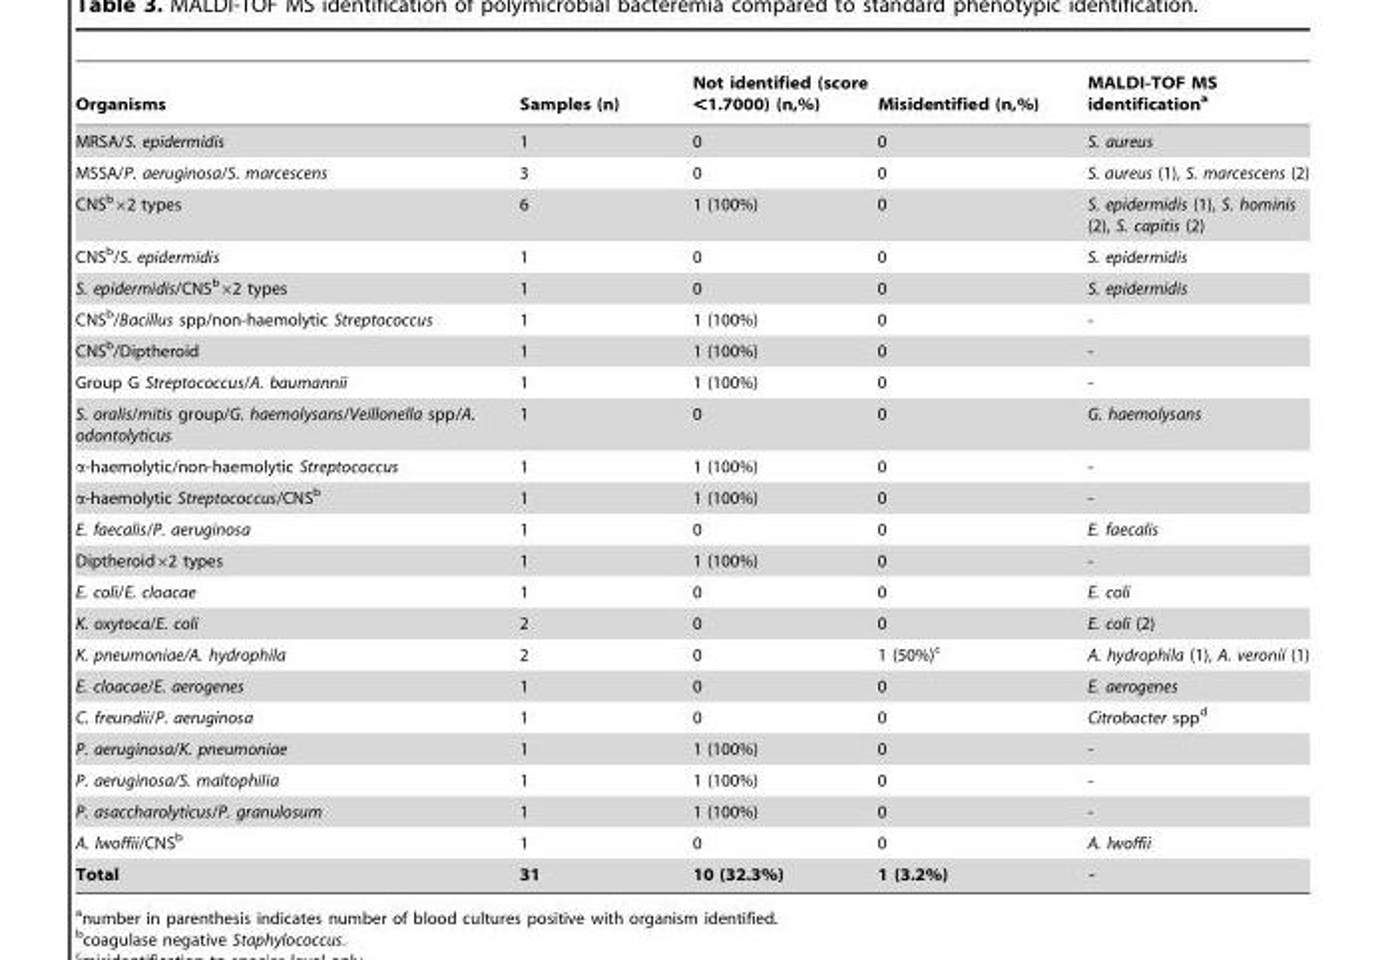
<table><thead><tr><td>Organisms</td><td>Samples (n)</td><td>Not identified (score &lt;1.7000) (n,%)</td><td>Misidentified (n,%)</td><td>MALDI-TOF MS identification<sup>a</sup></td></tr></thead><tbody><tr><td>MRSA/S. epidermidis</td><td>1</td><td>0</td><td>0</td><td>S. aureus</td></tr><tr><td>MSSA/P. aeruginosa/S. marcescens</td><td>3</td><td>0</td><td>0</td><td>S. aureus (1), S. marcescens (2)</td></tr><tr><td>CNS<sup>b</sup>×2 types</td><td>6</td><td>1 (100%)</td><td>0</td><td>S. epidermidis (1), S. hominis (2), S. capitis (2)</td></tr><tr><td>CNS<sup>b</sup>/S. epidermidis</td><td>1</td><td>0</td><td>0</td><td>S. epidermidis</td></tr><tr><td>S. epidermidis/CNS<sup>b</sup>×2 types</td><td>1</td><td>0</td><td>0</td><td>S. epidermidis</td></tr><tr><td>CNS<sup>b</sup>/Bacillus spp/non-haemolytic Streptococcus</td><td>1</td><td>1 (100%)</td><td>0</td><td>-</td></tr><tr><td>CNS<sup>b</sup>/Diptheroid</td><td>1</td><td>1 (100%)</td><td>0</td><td>-</td></tr><tr><td>Group G Streptococcus/A. baumannii</td><td>1</td><td>1 (100%)</td><td>0</td><td>-</td></tr><tr><td>S. oralis/mitis group/G. haemolysans/Veillonella spp/A. odontolyticus</td><td>1</td><td>0</td><td>0</td><td>G. haemolysans</td></tr><tr><td>α-haemolytic/non-haemolytic Streptococcus</td><td>1</td><td>1 (100%)</td><td>0</td><td>-</td></tr><tr><td>α-haemolytic Streptococcus/CNS<sup>b</sup></td><td>1</td><td>1 (100%)</td><td>0</td><td>-</td></tr><tr><td>E. faecalis/P. aeruginosa</td><td>1</td><td>0</td><td>0</td><td>E. faecalis</td></tr><tr><td>Diptheroid×2 types</td><td>1</td><td>1 (100%)</td><td>0</td><td>-</td></tr><tr><td>E. coli/E. cloacae</td><td>1</td><td>0</td><td>0</td><td>E. coli</td></tr><tr><td>K. oxytoca/E. coli</td><td>2</td><td>0</td><td>0</td><td>E. coli (2)</td></tr><tr><td>K. pneumoniae/A. hydrophila</td><td>2</td><td>0</td><td>1 (50%)<sup>c</sup></td><td>A. hydrophila (1), A. veronii (1)</td></tr><tr><td>E. cloacae/E. aerogenes</td><td>1</td><td>0</td><td>0</td><td>E. aerogenes</td></tr><tr><td>C. freundii/P. aeruginosa</td><td>1</td><td>0</td><td>0</td><td>Citrobacter spp<sup>d</sup></td></tr><tr><td>P. aeruginosa/K. pneumoniae</td><td>1</td><td>1 (100%)</td><td>0</td><td>-</td></tr><tr><td>P. aeruginosa/S. maltophilia</td><td>1</td><td>1 (100%)</td><td>0</td><td>-</td></tr><tr><td>P. asaccharolyticus/P. granulosum</td><td>1</td><td>1 (100%)</td><td>0</td><td>-</td></tr><tr><td>A. lwoffii/CNS<sup>b</sup></td><td>1</td><td>0</td><td>0</td><td>A. lwoffii</td></tr><tr><td>Total</td><td>31</td><td>10 (32.3%)</td><td>1 (3.2%)</td><td>-</td></tr></tbody></table>